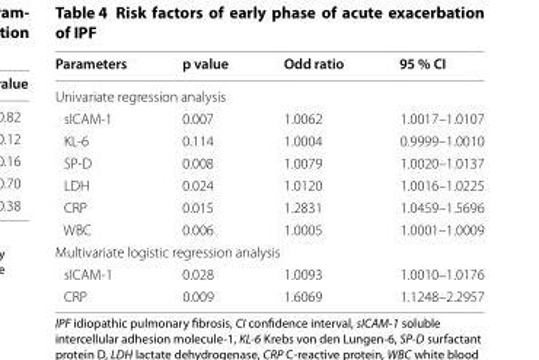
<table><thead><tr><td>Parameters</td><td>p value</td><td>Odd ratio</td><td>95 % CI</td></tr></thead><tbody><tr><td colspan="4">Univariate regression analysis</td></tr><tr><td>sICAM-1</td><td>0.007</td><td>1.0062</td><td>1.0017–1.0107</td></tr><tr><td>KL-6</td><td>0.114</td><td>1.0004</td><td>0.9999–1.0010</td></tr><tr><td>SP-D</td><td>0.008</td><td>1.0079</td><td>1.0020–1.0137</td></tr><tr><td>LDH</td><td>0.024</td><td>1.0120</td><td>1.0016–1.0225</td></tr><tr><td>CRP</td><td>0.015</td><td>1.2831</td><td>1.0459–1.5696</td></tr><tr><td>WBC</td><td>0.006</td><td>1.0005</td><td>1.0001–1.0009</td></tr><tr><td colspan="4">Multivariate logistic regression analysis</td></tr><tr><td>sICAM-1</td><td>0.028</td><td>1.0093</td><td>1.0010–1.0176</td></tr><tr><td>CRP</td><td>0.009</td><td>1.6069</td><td>1.1248–2.2957</td></tr></tbody></table>